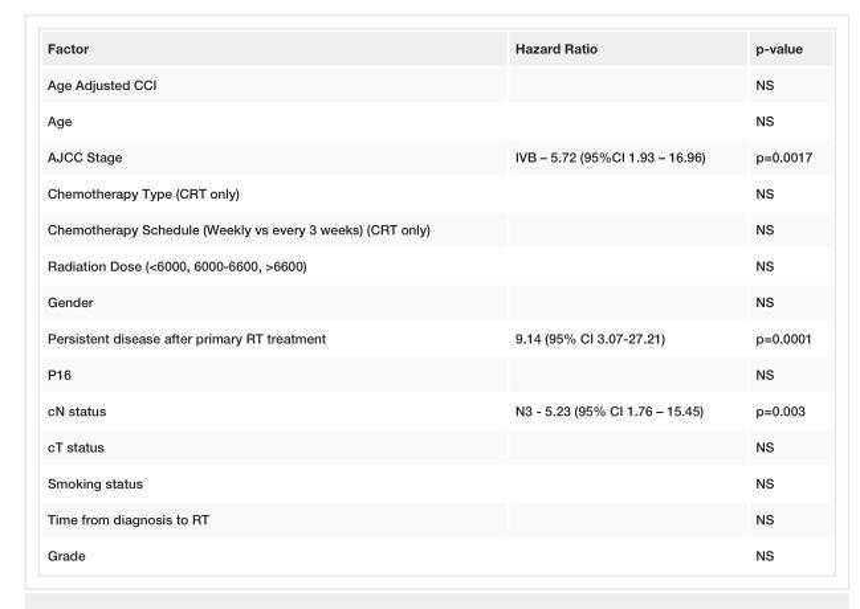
<table><tbody><tr><td>Factor</td><td>Hazard Ratio</td><td>p-value</td></tr><tr><td>Age Adjusted CCI</td><td></td><td>NS</td></tr><tr><td>Age</td><td></td><td>NS</td></tr><tr><td>AJCC Stage</td><td>IVB – 5.72 (95%CI 1.93 – 16.96)</td><td>p=0.0017</td></tr><tr><td>Chemotherapy Type (CRT only)</td><td></td><td>NS</td></tr><tr><td>Chemotherapy Schedule (Weekly vs every 3 weeks) (CRT only)</td><td></td><td>NS</td></tr><tr><td>Radiation Dose (&lt;6000, 6000-6600, &gt;6600)</td><td></td><td>NS</td></tr><tr><td>Gender</td><td></td><td>NS</td></tr><tr><td>Persistent disease after primary RT treatment</td><td>9.14 (95% CI 3.07-27.21)</td><td>p=0.0001</td></tr><tr><td>P16</td><td></td><td>NS</td></tr><tr><td>cN status</td><td>N3 - 5.23 (95% CI 1.76 – 15.45)</td><td>p=0.003</td></tr><tr><td>cT status</td><td></td><td>NS</td></tr><tr><td>Smoking status</td><td></td><td>NS</td></tr><tr><td>Time from diagnosis to RT</td><td></td><td>NS</td></tr><tr><td>Grade</td><td></td><td>NS</td></tr></tbody></table>